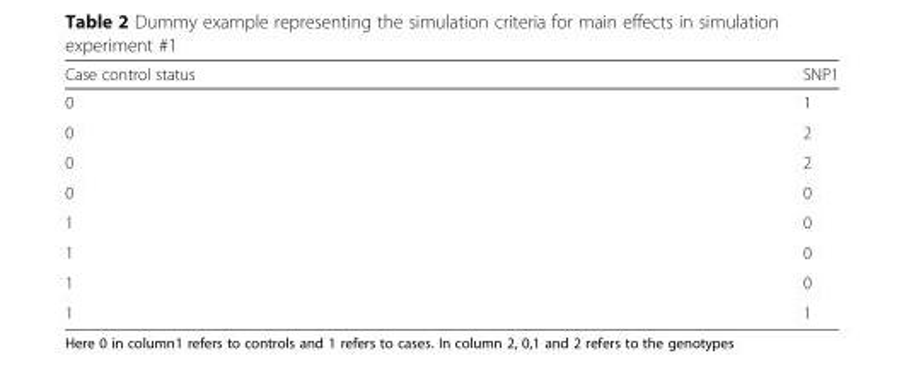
<table><thead><tr><td>Case control status</td><td>SNP1</td></tr></thead><tbody><tr><td>0</td><td>1</td></tr><tr><td>0</td><td>2</td></tr><tr><td>0</td><td>2</td></tr><tr><td>0</td><td>0</td></tr><tr><td>1</td><td>0</td></tr><tr><td>1</td><td>0</td></tr><tr><td>1</td><td>0</td></tr><tr><td>1</td><td>1</td></tr></tbody></table>